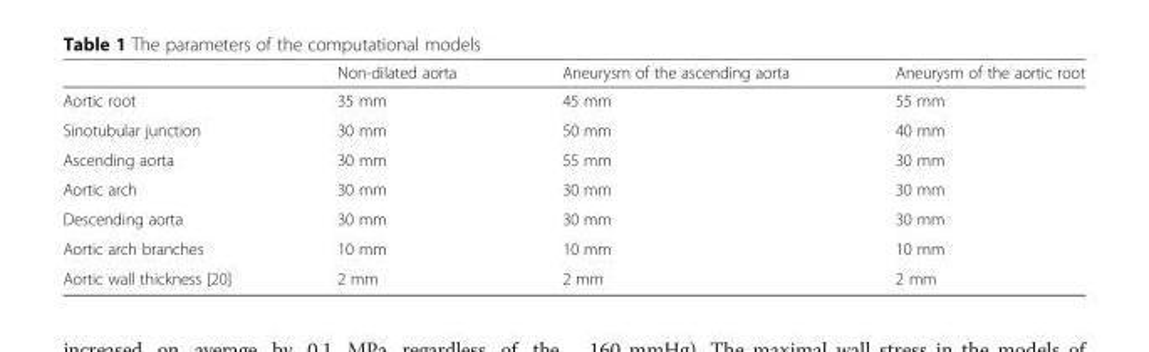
<table><thead><tr><td></td><td>Non-dilated aorta</td><td>Aneurysm of the ascending aorta</td><td>Aneurysm of the aortic root</td></tr></thead><tbody><tr><td>Aortic root</td><td>35 mm</td><td>45 mm</td><td>55 mm</td></tr><tr><td>Sinotubular junction</td><td>30 mm</td><td>50 mm</td><td>40 mm</td></tr><tr><td>Ascending aorta</td><td>30 mm</td><td>55 mm</td><td>30 mm</td></tr><tr><td>Aortic arch</td><td>30 mm</td><td>30 mm</td><td>30 mm</td></tr><tr><td>Descending aorta</td><td>30 mm</td><td>30 mm</td><td>30 mm</td></tr><tr><td>Aortic arch branches</td><td>10 mm</td><td>10 mm</td><td>10 mm</td></tr><tr><td>Aortic wall thickness [20]</td><td>2 mm</td><td>2 mm</td><td>2 mm</td></tr></tbody></table>